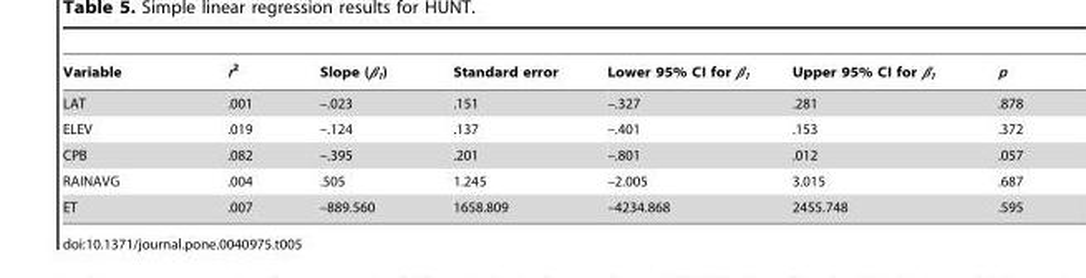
<table><thead><tr><td>Variable</td><td>r<sup>2</sup></td><td>Slope (β<sub>1</sub>)</td><td>Standard error</td><td>Lower 95% CI for β<sub>1</sub></td><td>Upper 95% CI for β<sub>1</sub></td><td>p</td></tr></thead><tbody><tr><td>LAT</td><td>.001</td><td>–.023</td><td>.151</td><td>–.327</td><td>.281</td><td>.878</td></tr><tr><td>ELEV</td><td>.019</td><td>–.124</td><td>.137</td><td>–.401</td><td>.153</td><td>.372</td></tr><tr><td>CPB</td><td>.082</td><td>–.395</td><td>.201</td><td>–.801</td><td>.012</td><td>.057</td></tr><tr><td>RAINAVG</td><td>.004</td><td>.505</td><td>1.245</td><td>–2.005</td><td>3.015</td><td>.687</td></tr><tr><td>ET</td><td>.007</td><td>–889.560</td><td>1658.809</td><td>–4234.868</td><td>2455.748</td><td>.595</td></tr></tbody></table>